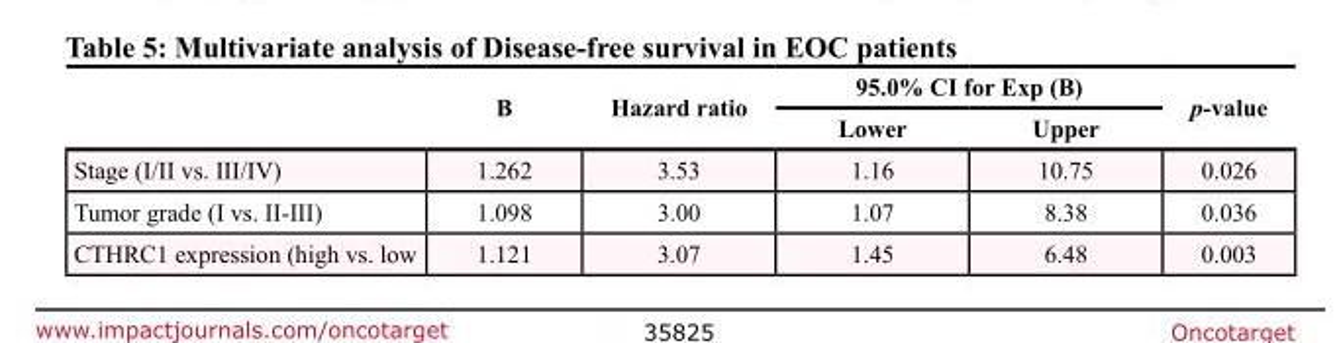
<table><thead><tr><td rowspan="2"></td><td rowspan="2">B</td><td rowspan="2">Hazard ratio</td><td colspan="2">95.0% CI for Exp (B)</td><td rowspan="2">p-value</td></tr><tr><td>Lower</td><td>Upper</td></tr></thead><tbody><tr><td>Stage (I/II vs. III/IV)</td><td>1.262</td><td>3.53</td><td>1.16</td><td>10.75</td><td>0.026</td></tr><tr><td>Tumor grade (I vs. II-III)</td><td>1.098</td><td>3.00</td><td>1.07</td><td>8.38</td><td>0.036</td></tr><tr><td>CTHRC1 expression (high vs. low</td><td>1.121</td><td>3.07</td><td>1.45</td><td>6.48</td><td>0.003</td></tr></tbody></table>